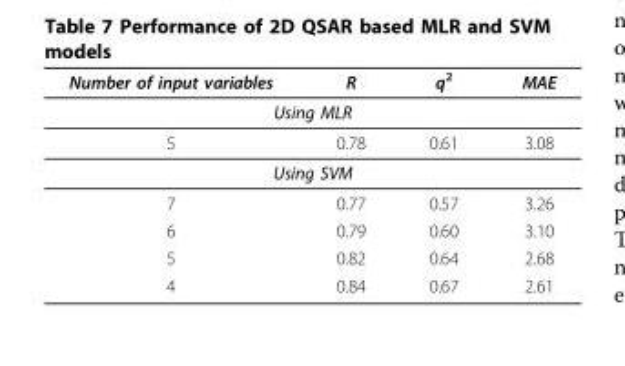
<table><thead><tr><td>Number of input variables</td><td>R</td><td>q<sup>2</sup></td><td>MAE</td></tr></thead><tbody><tr><td colspan="4">Using MLR</td></tr><tr><td>5</td><td>0.78</td><td>0.61</td><td>3.08</td></tr><tr><td colspan="4">Using SVM</td></tr><tr><td>7</td><td>0.77</td><td>0.57</td><td>3.26</td></tr><tr><td>6</td><td>0.79</td><td>0.60</td><td>3.10</td></tr><tr><td>5</td><td>0.82</td><td>0.64</td><td>2.68</td></tr><tr><td>4</td><td>0.84</td><td>0.67</td><td>2.61</td></tr></tbody></table>